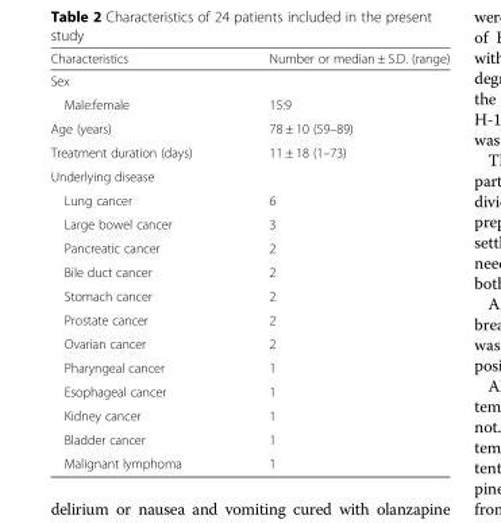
<table><thead><tr><td>Characteristics</td><td>Number or median ± S.D. (range)</td></tr></thead><tbody><tr><td colspan="2">Sex</td></tr><tr><td>Male:female</td><td>15:9</td></tr><tr><td>Age (years)</td><td>78 ± 10 (59–89)</td></tr><tr><td>Treatment duration (days)</td><td>11 ± 18 (1–73)</td></tr><tr><td colspan="2">Underlying disease</td></tr><tr><td>Lung cancer</td><td>6</td></tr><tr><td>Large bowel cancer</td><td>3</td></tr><tr><td>Pancreatic cancer</td><td>2</td></tr><tr><td>Bile duct cancer</td><td>2</td></tr><tr><td>Stomach cancer</td><td>2</td></tr><tr><td>Prostate cancer</td><td>2</td></tr><tr><td>Ovarian cancer</td><td>2</td></tr><tr><td>Pharyngeal cancer</td><td>1</td></tr><tr><td>Esophageal cancer</td><td>1</td></tr><tr><td>Kidney cancer</td><td>1</td></tr><tr><td>Bladder cancer</td><td>1</td></tr><tr><td>Malignant lymphoma</td><td>1</td></tr></tbody></table>